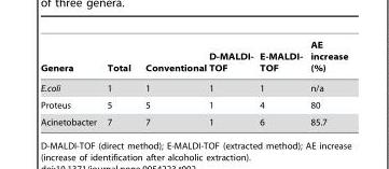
<table><thead><tr><td>Genera</td><td>Total</td><td>Conventional</td><td>D-MALDI- TOF</td><td>E-MALDI- TOF</td><td>AE increase (%)</td></tr></thead><tbody><tr><td>E.coli</td><td>1</td><td>1</td><td>1</td><td>1</td><td>n/a</td></tr><tr><td>Proteus</td><td>5</td><td>5</td><td>1</td><td>4</td><td>80</td></tr><tr><td>Acinetobacter</td><td>7</td><td>7</td><td>1</td><td>6</td><td>85.7</td></tr></tbody></table>